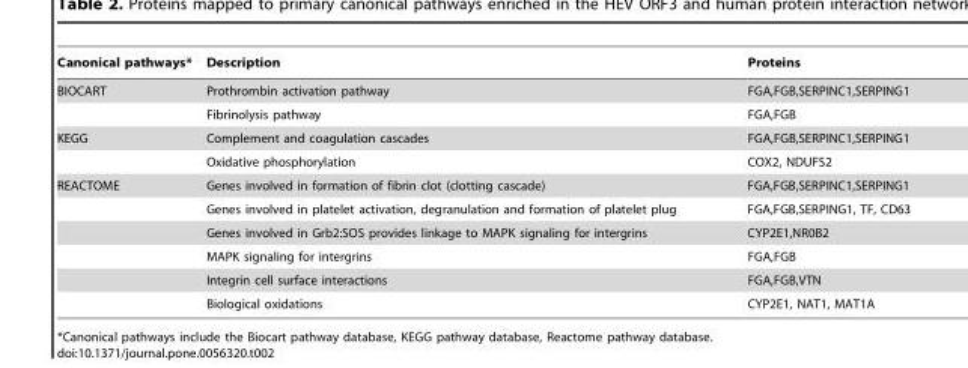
<table><thead><tr><td>Canonical pathways*</td><td>Description</td><td>Proteins</td></tr></thead><tbody><tr><td rowspan="2">BIOCART</td><td>Prothrombin activation pathway</td><td>FGA,FGB,SERPINC1,SERPING1</td></tr><tr><td>Fibrinolysis pathway</td><td>FGA,FGB</td></tr><tr><td rowspan="2">KEGG</td><td>Complement and coagulation cascades</td><td>FGA,FGB,SERPINC1,SERPING1</td></tr><tr><td>Oxidative phosphorylation</td><td>COX2, NDUFS2</td></tr><tr><td rowspan="6">REACTOME</td><td>Genes involved in formation of fibrin clot (clotting cascade)</td><td>FGA,FGB,SERPINC1,SERPING1</td></tr><tr><td>Genes involved in platelet activation, degranulation and formation of platelet plug</td><td>FGA,FGB,SERPING1, TF, CD63</td></tr><tr><td>Genes involved in Grb2:SOS provides linkage to MAPK signaling for intergrins</td><td>CYP2E1,NR0B2</td></tr><tr><td>MAPK signaling for intergrins</td><td>FGA,FGB</td></tr><tr><td>Integrin cell surface interactions</td><td>FGA,FGB,VTN</td></tr><tr><td>Biological oxidations</td><td>CYP2E1, NAT1, MAT1A</td></tr></tbody></table>